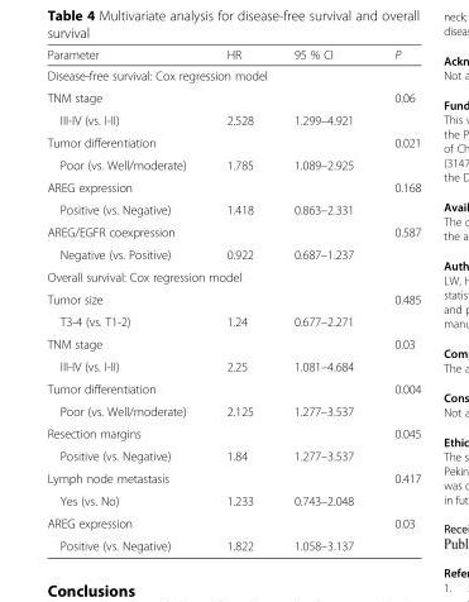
<table><thead><tr><td>Parameter</td><td>HR</td><td>95 % CI</td><td>P</td></tr></thead><tbody><tr><td colspan="4">Disease-free survival: Cox regression model</td></tr><tr><td>TNM stage</td><td></td><td></td><td>0.06</td></tr><tr><td>III-IV (vs. I-II)</td><td>2.528</td><td>1.299–4.921</td><td></td></tr><tr><td>Tumor differentiation</td><td></td><td></td><td>0.021</td></tr><tr><td>Poor (vs. Well/moderate)</td><td>1.785</td><td>1.089–2.925</td><td></td></tr><tr><td>AREG expression</td><td></td><td></td><td>0.168</td></tr><tr><td>Positive (vs. Negative)</td><td>1.418</td><td>0.863–2.331</td><td></td></tr><tr><td>AREG/EGFR coexpression</td><td></td><td></td><td>0.587</td></tr><tr><td>Negative (vs. Positive)</td><td>0.922</td><td>0.687–1.237</td><td></td></tr><tr><td colspan="4">Overall survival: Cox regression model</td></tr><tr><td>Tumor size</td><td></td><td></td><td>0.485</td></tr><tr><td>T3-4 (vs. T1-2)</td><td>1.24</td><td>0.677–2.271</td><td></td></tr><tr><td>TNM stage</td><td></td><td></td><td>0.03</td></tr><tr><td>III-IV (vs. I-II)</td><td>2.25</td><td>1.081–4.684</td><td></td></tr><tr><td>Tumor differentiation</td><td></td><td></td><td>0.004</td></tr><tr><td>Poor (vs. Well/moderate)</td><td>2.125</td><td>1.277–3.537</td><td></td></tr><tr><td>Resection margins</td><td></td><td></td><td>0.045</td></tr><tr><td>Positive (vs. Negative)</td><td>1.84</td><td>1.277–3.537</td><td></td></tr><tr><td>Lymph node metastasis</td><td></td><td></td><td>0.417</td></tr><tr><td>Yes (vs. No)</td><td>1.233</td><td>0.743–2.048</td><td></td></tr><tr><td>AREG expression</td><td></td><td></td><td>0.03</td></tr><tr><td>Positive (vs. Negative)</td><td>1.822</td><td>1.058–3.137</td><td></td></tr></tbody></table>